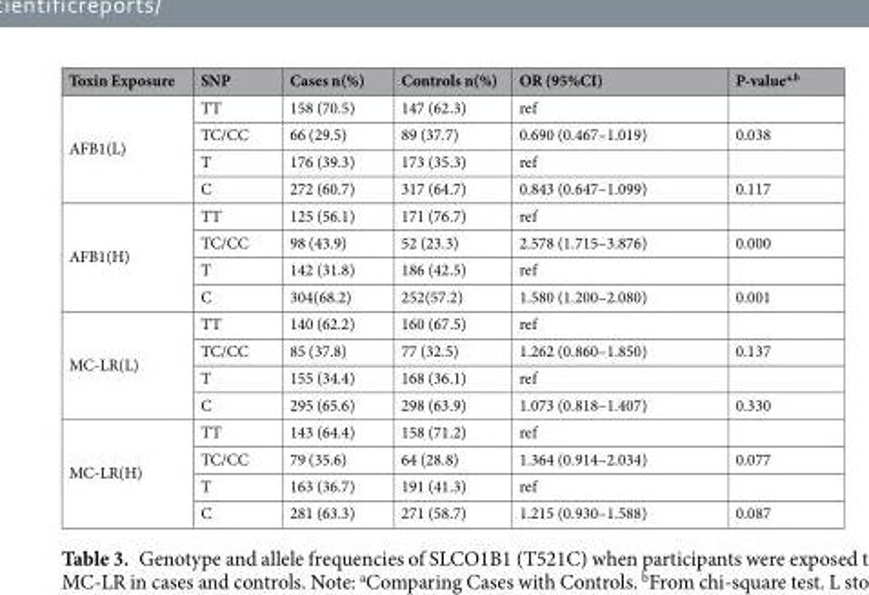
<table><thead><tr><td>Toxin Exposure</td><td>SNP</td><td>Cases n(%)</td><td>Controls n(%)</td><td>OR (95%CI)</td><td>P-value<sup>a,b</sup></td></tr></thead><tbody><tr><td rowspan="4">AFB1(L)</td><td>TT</td><td>158 (70.5)</td><td>147 (62.3)</td><td>ref</td><td></td></tr><tr><td>TC/CC</td><td>66 (29.5)</td><td>89 (37.7)</td><td>0.690 (0.467–1.019)</td><td>0.038</td></tr><tr><td>T</td><td>176 (39.3)</td><td>173 (35.3)</td><td>ref</td><td></td></tr><tr><td>C</td><td>272 (60.7)</td><td>317 (64.7)</td><td>0.843 (0.647–1.099)</td><td>0.117</td></tr><tr><td rowspan="4">AFB1(H)</td><td>TT</td><td>125 (56.1)</td><td>171 (76.7)</td><td>ref</td><td></td></tr><tr><td>TC/CC</td><td>98 (43.9)</td><td>52 (23.3)</td><td>2.578 (1.715–3.876)</td><td>0.000</td></tr><tr><td>T</td><td>142 (31.8)</td><td>186 (42.5)</td><td>ref</td><td></td></tr><tr><td>C</td><td>304(68.2)</td><td>252(57.2)</td><td>1.580 (1.200–2.080)</td><td>0.001</td></tr><tr><td rowspan="4">MC-LR(L)</td><td>TT</td><td>140 (62.2)</td><td>160 (67.5)</td><td>ref</td><td></td></tr><tr><td>TC/CC</td><td>85 (37.8)</td><td>77 (32.5)</td><td>1.262 (0.860–1.850)</td><td>0.137</td></tr><tr><td>T</td><td>155 (34.4)</td><td>168 (36.1)</td><td>ref</td><td></td></tr><tr><td>C</td><td>295 (65.6)</td><td>298 (63.9)</td><td>1.073 (0.818–1.407)</td><td>0.330</td></tr><tr><td rowspan="4">MC-LR(H)</td><td>TT</td><td>143 (64.4)</td><td>158 (71.2)</td><td>ref</td><td></td></tr><tr><td>TC/CC</td><td>79 (35.6)</td><td>64 (28.8)</td><td>1.364 (0.914–2.034)</td><td>0.077</td></tr><tr><td>T</td><td>163 (36.7)</td><td>191 (41.3)</td><td>ref</td><td></td></tr><tr><td>C</td><td>281 (63.3)</td><td>271 (58.7)</td><td>1.215 (0.930–1.588)</td><td>0.087</td></tr></tbody></table>